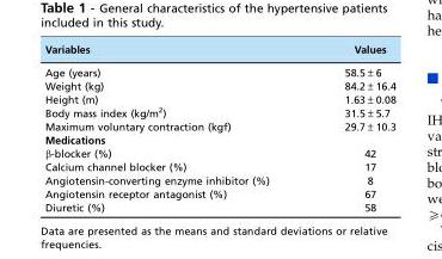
<table><thead><tr><td>Variables</td><td>Values</td></tr></thead><tbody><tr><td>Age (years)</td><td>58.5±6</td></tr><tr><td>Weight (kg)</td><td>84.2±16.4</td></tr><tr><td>Height (m)</td><td>1.63±0.08</td></tr><tr><td>Body mass index (kg/m<sup>2</sup>)</td><td>31.5±5.7</td></tr><tr><td>Maximum voluntary contraction (kgf)</td><td>29.7±10.3</td></tr><tr><td colspan="2">Medications</td></tr><tr><td>β-blocker (%)</td><td>42</td></tr><tr><td>Calcium channel blocker (%)</td><td>17</td></tr><tr><td>Angiotensin-converting enzyme inhibitor (%)</td><td>8</td></tr><tr><td>Angiotensin receptor antagonist (%)</td><td>67</td></tr><tr><td>Diuretic (%)</td><td>58</td></tr></tbody></table>